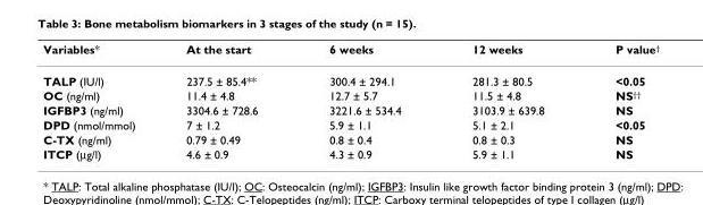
<table><thead><tr><td>Variables*</td><td>At the start</td><td>6 weeks</td><td>12 weeks</td><td>P value<sup>†</sup></td></tr></thead><tbody><tr><td>TALP (IU/l)</td><td>237.5 ± 85.4**</td><td>300.4 ± 294.1</td><td>281.3 ± 80.5</td><td>&lt;0.05</td></tr><tr><td>OC (ng/ml)</td><td>11.4 ± 4.8</td><td>12.7 ± 5.7</td><td>11.5 ± 4.8</td><td>NS<sup>††</sup></td></tr><tr><td>IGFBP3 (ng/ml)</td><td>3304.6 ± 728.6</td><td>3221.6 ± 534.4</td><td>3103.9 ± 639.8</td><td>NS</td></tr><tr><td>DPD (nmol/mmol)</td><td>7 ± 1.2</td><td>5.9 ± 1.1</td><td>5.1 ± 2.1</td><td>&lt;0.05</td></tr><tr><td>C-TX (ng/ml)</td><td>0.79 ± 0.49</td><td>0.8 ± 0.4</td><td>0.8 ± 0.3</td><td>NS</td></tr><tr><td>ITCP (µg/l)</td><td>4.6 ± 0.9</td><td>4.3 ± 0.9</td><td>5.9 ± 1.1</td><td>NS</td></tr></tbody></table>